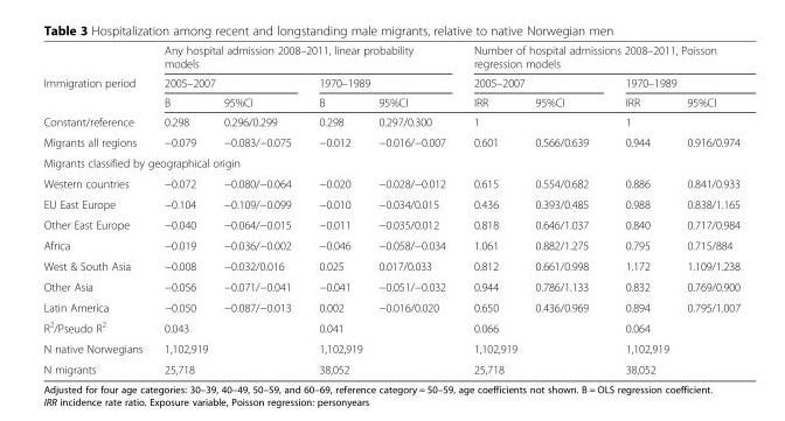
<table><thead><tr><td rowspan="3">Immigration period</td><td colspan="4">Any hospital admission 2008–2011, linear probability models</td><td colspan="4">Number of hospital admissions 2008–2011, Poisson regression models</td></tr><tr><td colspan="2">2005–2007</td><td colspan="2">1970–1989</td><td colspan="2">2005–2007</td><td colspan="2">1970–1989</td></tr><tr><td>B</td><td>95%CI</td><td>B</td><td>95%CI</td><td>IRR</td><td>95%CI</td><td>IRR</td><td>95%CI</td></tr></thead><tbody><tr><td>Constant/reference</td><td>0.298</td><td>0.296/0.299</td><td>0.298</td><td>0.297/0.300</td><td>1</td><td></td><td>1</td><td></td></tr><tr><td>Migrants all regions</td><td>−0.079</td><td>−0.083/−0.075</td><td>−0.012</td><td>−0.016/−0.007</td><td>0.601</td><td>0.566/0.639</td><td>0.944</td><td>0.916/0.974</td></tr><tr><td colspan="9">Migrants classified by geographical origin</td></tr><tr><td>Western countries</td><td>−0.072</td><td>−0.080/−0.064</td><td>−0.020</td><td>−0.028/−0.012</td><td>0.615</td><td>0.554/0.682</td><td>0.886</td><td>0.841/0.933</td></tr><tr><td>EU East Europe</td><td>−0.104</td><td>−0.109/−0.099</td><td>−0.010</td><td>−0.034/0.015</td><td>0.436</td><td>0.393/0.485</td><td>0.988</td><td>0.838/1.165</td></tr><tr><td>Other East Europe</td><td>−0.040</td><td>−0.064/−0.015</td><td>−0.011</td><td>−0.035/0.012</td><td>0.818</td><td>0.646/1.037</td><td>0.840</td><td>0.717/0.984</td></tr><tr><td>Africa</td><td>−0.019</td><td>−0.036/−0.002</td><td>−0.046</td><td>−0.058/−0.034</td><td>1.061</td><td>0.882/1.275</td><td>0.795</td><td>0.715/884</td></tr><tr><td>West &amp; South Asia</td><td>−0.008</td><td>−0.032/0.016</td><td>0.025</td><td>0.017/0.033</td><td>0.812</td><td>0.661/0.998</td><td>1.172</td><td>1.109/1.238</td></tr><tr><td>Other Asia</td><td>−0.056</td><td>−0.071/−0.041</td><td>−0.041</td><td>−0.051/−0.032</td><td>0.944</td><td>0.786/1.133</td><td>0.832</td><td>0.769/0.900</td></tr><tr><td>Latin America</td><td>−0.050</td><td>−0.087/−0.013</td><td>0.002</td><td>−0.016/0.020</td><td>0.650</td><td>0.436/0.969</td><td>0.894</td><td>0.795/1.007</td></tr><tr><td>R<sup>2</sup>/Pseudo R<sup>2</sup></td><td colspan="2">0.043</td><td colspan="2">0.041</td><td colspan="2">0.066</td><td colspan="2">0.064</td></tr><tr><td>N native Norwegians</td><td colspan="2">1,102,919</td><td colspan="2">1,102,919</td><td colspan="2">1,102,919</td><td colspan="2">1,102,919</td></tr><tr><td>N migrants</td><td colspan="2">25,718</td><td colspan="2">38,052</td><td colspan="2">25,718</td><td colspan="2">38,052</td></tr></tbody></table>